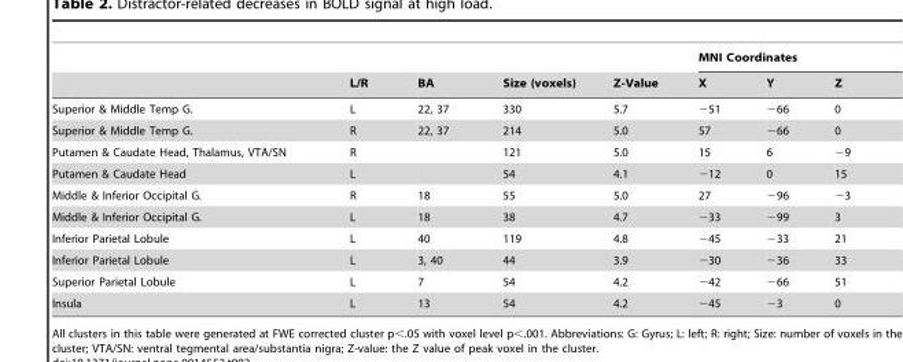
<table><thead><tr><td rowspan="2"></td><td rowspan="2">L/R</td><td rowspan="2">BA</td><td rowspan="2">Size (voxels)</td><td rowspan="2">Z-Value</td><td colspan="3">MNI Coordinates</td></tr><tr><td>X</td><td>Y</td><td>Z</td></tr></thead><tbody><tr><td>Superior &amp; Middle Temp G.</td><td>L</td><td>22, 37</td><td>330</td><td>5.7</td><td>−51</td><td>−66</td><td>0</td></tr><tr><td>Superior &amp; Middle Temp G.</td><td>R</td><td>22, 37</td><td>214</td><td>5.0</td><td>57</td><td>−66</td><td>0</td></tr><tr><td>Putamen &amp; Caudate Head, Thalamus, VTA/SN</td><td>R</td><td></td><td>121</td><td>5.0</td><td>15</td><td>6</td><td>−9</td></tr><tr><td>Putamen &amp; Caudate Head</td><td>L</td><td></td><td>54</td><td>4.1</td><td>−12</td><td>0</td><td>15</td></tr><tr><td>Middle &amp; Inferior Occipital G.</td><td>R</td><td>18</td><td>55</td><td>5.0</td><td>27</td><td>−96</td><td>−3</td></tr><tr><td>Middle &amp; Inferior Occipital G.</td><td>L</td><td>18</td><td>38</td><td>4.7</td><td>−33</td><td>−99</td><td>3</td></tr><tr><td>Inferior Parietal Lobule</td><td>L</td><td>40</td><td>119</td><td>4.8</td><td>−45</td><td>−33</td><td>21</td></tr><tr><td>Inferior Parietal Lobule</td><td>L</td><td>3, 40</td><td>44</td><td>3.9</td><td>−30</td><td>−36</td><td>33</td></tr><tr><td>Superior Parietal Lobule</td><td>L</td><td>7</td><td>54</td><td>4.2</td><td>−42</td><td>−66</td><td>51</td></tr><tr><td>Insula</td><td>L</td><td>13</td><td>54</td><td>4.2</td><td>−45</td><td>−3</td><td>0</td></tr></tbody></table>